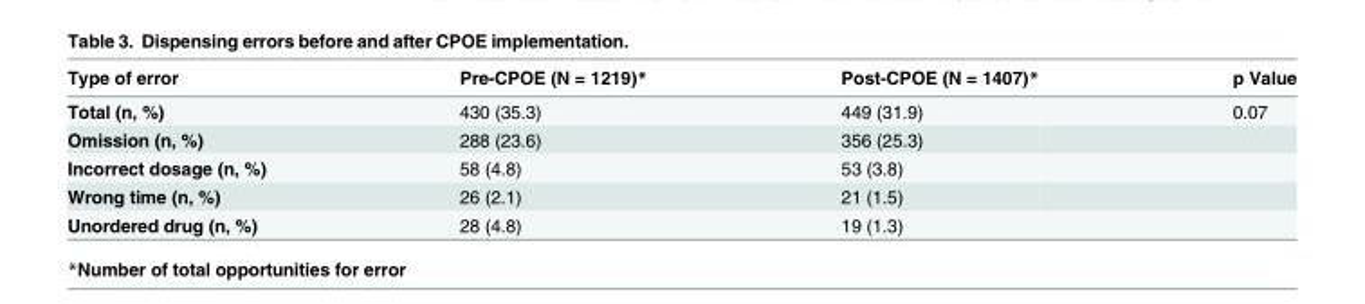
<table><thead><tr><td>Type of error</td><td>Pre-CPOE (N = 1219)*</td><td>Post-CPOE (N = 1407)*</td><td>p Value</td></tr></thead><tbody><tr><td>Total (n, %)</td><td>430 (35.3)</td><td>449 (31.9)</td><td>0.07</td></tr><tr><td>Omission (n, %)</td><td>288 (23.6)</td><td>356 (25.3)</td><td></td></tr><tr><td>Incorrect dosage (n, %)</td><td>58 (4.8)</td><td>53 (3.8)</td><td></td></tr><tr><td>Wrong time (n, %)</td><td>26 (2.1)</td><td>21 (1.5)</td><td></td></tr><tr><td>Unordered drug (n, %)</td><td>28 (4.8)</td><td>19 (1.3)</td><td></td></tr></tbody></table>